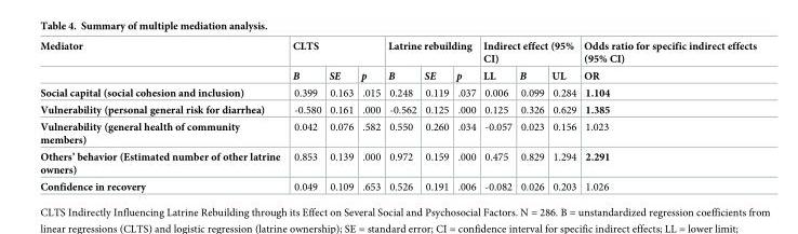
<table><thead><tr><td rowspan="2">Mediator</td><td colspan="3">CLTS</td><td colspan="3">Latrine rebuilding</td><td colspan="3">Indirect effect (95% CI)</td><td rowspan="2">Odds ratio for specific indirect effects (95% CI) OR</td></tr><tr><td>B</td><td>SE</td><td>p</td><td>B</td><td>SE</td><td>p</td><td>LL</td><td>B</td><td>UL</td></tr></thead><tbody><tr><td>Social capital (social cohesion and inclusion)</td><td>0.399</td><td>0.163</td><td>.015</td><td>0.248</td><td>0.119</td><td>.037</td><td>0.006</td><td>0.099</td><td>0.284</td><td>1.104</td></tr><tr><td>Vulnerability (personal general risk for diarrhea)</td><td>-0.580</td><td>0.161</td><td>.000</td><td>-0.562</td><td>0.125</td><td>.000</td><td>0.125</td><td>0.326</td><td>0.629</td><td>1.385</td></tr><tr><td>Vulnerability (general health of community members)</td><td>0.042</td><td>0.076</td><td>.582</td><td>0.550</td><td>0.260</td><td>.034</td><td>-0.057</td><td>0.023</td><td>0.156</td><td>1.023</td></tr><tr><td>Others’ behavior (Estimated number of other latrine owners)</td><td>0.853</td><td>0.139</td><td>.000</td><td>0.972</td><td>0.159</td><td>.000</td><td>0.475</td><td>0.829</td><td>1.294</td><td>2.291</td></tr><tr><td>Confidence in recovery</td><td>0.049</td><td>0.109</td><td>.653</td><td>0.526</td><td>0.191</td><td>.006</td><td>-0.082</td><td>0.026</td><td>0.203</td><td>1.026</td></tr></tbody></table>